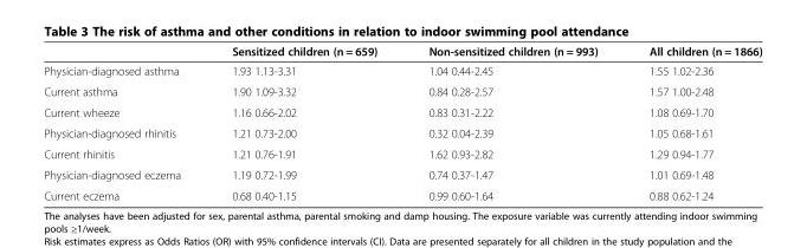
<table><thead><tr><td></td><td>Sensitized children (n = 659)</td><td>Non-sensitized children (n = 993)</td><td>All children (n = 1866)</td></tr></thead><tbody><tr><td>Physician-diagnosed asthma</td><td>1.93 1.13-3.31</td><td>1.04 0.44-2.45</td><td>1.55 1.02-2.36</td></tr><tr><td>Current asthma</td><td>1.90 1.09-3.32</td><td>0.84 0.28-2.57</td><td>1.57 1.00-2.48</td></tr><tr><td>Current wheeze</td><td>1.16 0.66-2.02</td><td>0.83 0.31-2.22</td><td>1.08 0.69-1.70</td></tr><tr><td>Physician-diagnosed rhinitis</td><td>1.21 0.73-2.00</td><td>0.32 0.04-2.39</td><td>1.05 0.68-1.61</td></tr><tr><td>Current rhinitis</td><td>1.21 0.76-1.91</td><td>1.62 0.93-2.82</td><td>1.29 0.94-1.77</td></tr><tr><td>Physician-diagnosed eczema</td><td>1.19 0.72-1.99</td><td>0.74 0.37-1.47</td><td>1.01 0.69-1.48</td></tr><tr><td>Current eczema</td><td>0.68 0.40-1.15</td><td>0.99 0.60-1.64</td><td>0.88 0.62-1.24</td></tr></tbody></table>